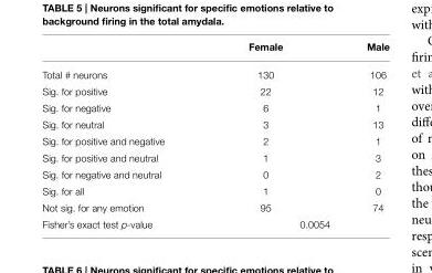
<table><thead><tr><td></td><td>Female</td><td>Male</td></tr></thead><tbody><tr><td>Total # neurons</td><td>130</td><td>106</td></tr><tr><td>Sig. for positive</td><td>22</td><td>12</td></tr><tr><td>Sig. for negative</td><td>6</td><td>1</td></tr><tr><td>Sig. for neutral</td><td>3</td><td>13</td></tr><tr><td>Sig. for positive and negative</td><td>2</td><td>1</td></tr><tr><td>Sig. for positive and neutral</td><td>1</td><td>3</td></tr><tr><td>Sig. for negative and neutral</td><td>0</td><td>2</td></tr><tr><td>Sig. for all</td><td>1</td><td>0</td></tr><tr><td>Not sig. for any emotion</td><td>95</td><td>74</td></tr><tr><td>Fisher’s exact test p-value</td><td colspan="2">0.0054</td></tr></tbody></table>